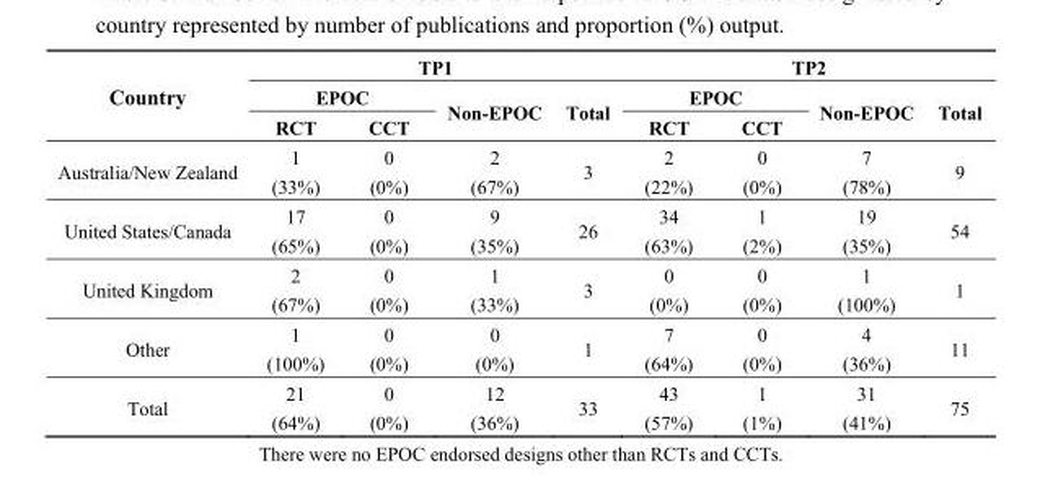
<table><thead><tr><td rowspan="3">Country</td><td colspan="4">TP1</td><td colspan="4">TP2</td></tr><tr><td colspan="2">EPOC</td><td rowspan="2">Non-EPOC</td><td rowspan="2">Total</td><td colspan="2">EPOC</td><td rowspan="2">Non-EPOC</td><td rowspan="2">Total</td></tr><tr><td>RCT</td><td>CCT</td><td>RCT</td><td>CCT</td></tr></thead><tbody><tr><td>Australia/New Zealand</td><td>1 (33%)</td><td>0 (0%)</td><td>2 (67%)</td><td>3</td><td>2 (22%)</td><td>0 (0%)</td><td>7 (78%)</td><td>9</td></tr><tr><td>United States/Canada</td><td>17 (65%)</td><td>0 (0%)</td><td>9 (35%)</td><td>26</td><td>34 (63%)</td><td>1 (2%)</td><td>19 (35%)</td><td>54</td></tr><tr><td>United Kingdom</td><td>2 (67%)</td><td>0 (0%)</td><td>1 (33%)</td><td>3</td><td>0 (0%)</td><td>0 (0%)</td><td>1 (100%)</td><td>1</td></tr><tr><td>Other</td><td>1 (100%)</td><td>0 (0%)</td><td>0 (0%)</td><td>1</td><td>7 (64%)</td><td>0 (0%)</td><td>4 (36%)</td><td>11</td></tr><tr><td>Total</td><td>21 (64%)</td><td>0 (0%)</td><td>12 (36%)</td><td>33</td><td>43 (57%)</td><td>1 (1%)</td><td>31 (41%)</td><td>75</td></tr></tbody></table>